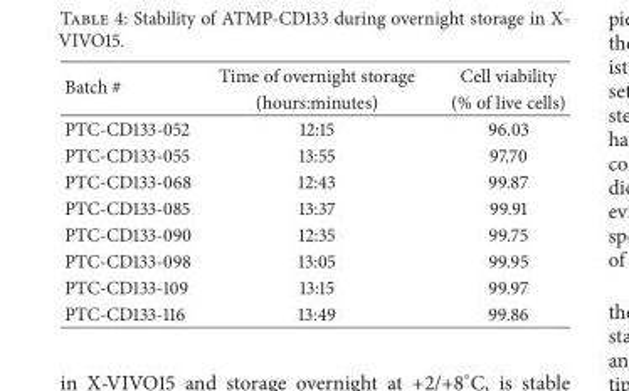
<table><thead><tr><td rowspan="2">Batch #</td><td rowspan="2">Time of overnight storage (hours:minutes)</td><td rowspan="2">Cell viability (% of live cells)</td></tr><tr></tr></thead><tbody><tr><td>PTC-CD133-052</td><td>12:15</td><td>96.03</td></tr><tr><td>PTC-CD133-055</td><td>13:55</td><td>97.70</td></tr><tr><td>PTC-CD133-068</td><td>12:43</td><td>99.87</td></tr><tr><td>PTC-CD133-085</td><td>13:37</td><td>99.91</td></tr><tr><td>PTC-CD133-090</td><td>12:35</td><td>99.75</td></tr><tr><td>PTC-CD133-098</td><td>13:05</td><td>99.95</td></tr><tr><td>PTC-CD133-109</td><td>13:15</td><td>99.97</td></tr><tr><td>PTC-CD133-116</td><td>13:49</td><td>99.86</td></tr></tbody></table>